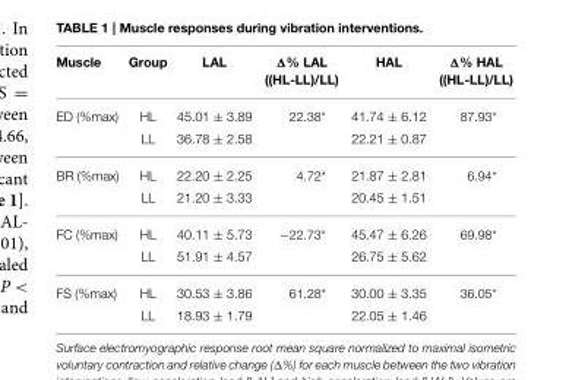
<table><thead><tr><td>Muscle</td><td>Group</td><td>LAL</td><td>Δ% LAL ((HL-LL)/LL)</td><td>HAL</td><td>Δ% HAL ((HL-LL)/LL)</td></tr></thead><tbody><tr><td rowspan="2">ED (%max)</td><td>HL</td><td>45.01 ± 3.89</td><td>22.38*</td><td>41.74 ± 6.12</td><td>87.93*</td></tr><tr><td>LL</td><td>36.78 ± 2.58</td><td></td><td>22.21 ± 0.87</td><td></td></tr><tr><td rowspan="2">BR (%max)</td><td>HL</td><td>22.20 ± 2.25</td><td>4.72*</td><td>21.87 ± 2.81</td><td>6.94*</td></tr><tr><td>LL</td><td>21.20 ± 3.33</td><td></td><td>20.45 ± 1.51</td><td></td></tr><tr><td rowspan="2">FC (%max)</td><td>HL</td><td>40.11 ± 5.73</td><td>−22.73*</td><td>45.47 ± 6.26</td><td>69.98*</td></tr><tr><td>LL</td><td>51.91 ± 4.57</td><td></td><td>26.75 ± 5.62</td><td></td></tr><tr><td rowspan="2">FS (%max)</td><td>HL</td><td>30.53 ± 3.86</td><td>61.28*</td><td>30.00 ± 3.35</td><td>36.05*</td></tr><tr><td>LL</td><td>18.93 ± 1.79</td><td></td><td>22.05 ± 1.46</td><td></td></tr></tbody></table>